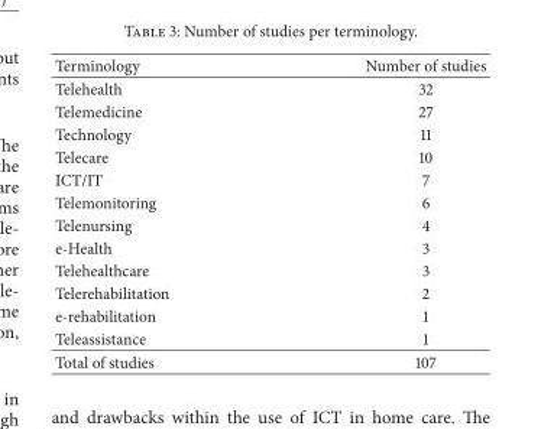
<table><thead><tr><td>Terminology</td><td>Number of studies</td></tr></thead><tbody><tr><td>Telehealth</td><td>32</td></tr><tr><td>Telemedicine</td><td>27</td></tr><tr><td>Technology</td><td>11</td></tr><tr><td>Telecare</td><td>10</td></tr><tr><td>ICT/IT</td><td>7</td></tr><tr><td>Telemonitoring</td><td>6</td></tr><tr><td>Telenursing</td><td>4</td></tr><tr><td>e-Health</td><td>3</td></tr><tr><td>Telehealthcare</td><td>3</td></tr><tr><td>Telerehabilitation</td><td>2</td></tr><tr><td>e-rehabilitation</td><td>1</td></tr><tr><td>Teleassistance</td><td>1</td></tr><tr><td>Total of studies</td><td>107</td></tr></tbody></table>